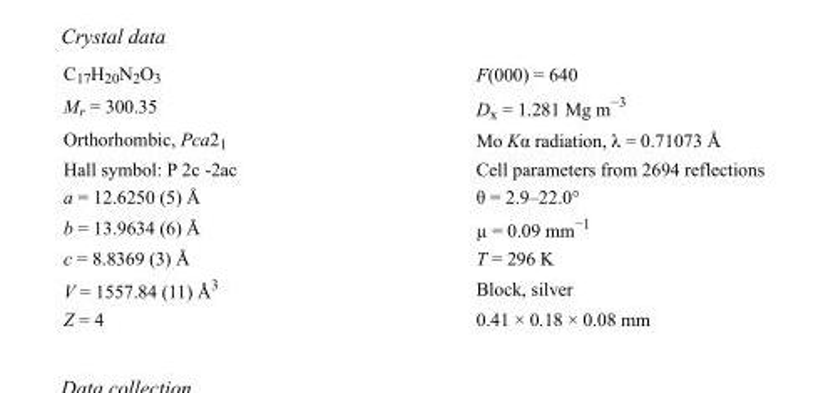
<table><tbody><tr><td>C<sub>17</sub>H<sub>20</sub>N<sub>2</sub>O<sub>3</sub></td><td>F(000) = 640</td></tr><tr><td>M<sub>r</sub> = 300.35</td><td>D<sub>x</sub> = 1.281 Mg m<sup>−3</sup></td></tr><tr><td>Orthorhombic, Pca2<sub>1</sub></td><td>Mo Kα radiation, λ = 0.71073 Å</td></tr><tr><td>Hall symbol: P 2c -2ac</td><td>Cell parameters from 2694 reflections</td></tr><tr><td>a = 12.6250 (5) Å</td><td>θ = 2.9–22.0°</td></tr><tr><td>b = 13.9634 (6) Å</td><td>µ = 0.09 mm<sup>−1</sup></td></tr><tr><td>c = 8.8369 (3) Å</td><td>T = 296 K</td></tr><tr><td>V = 1557.84 (11) Å<sup>3</sup></td><td>Block, silver</td></tr><tr><td>Z = 4</td><td>0.41 × 0.18 × 0.08 mm</td></tr></tbody></table>